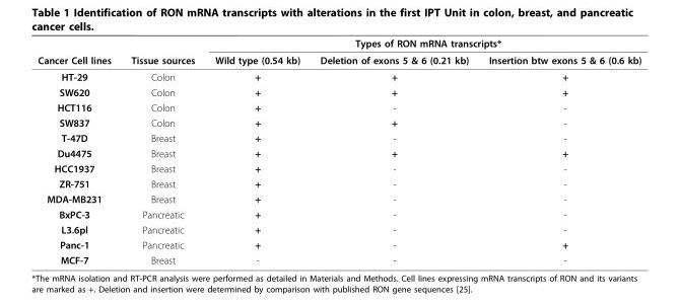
<table><thead><tr><td rowspan="2">Cancer Cell lines</td><td rowspan="2">Tissue sources</td><td colspan="3">Types of RON mRNA transcripts*</td></tr><tr><td>Wild type (0.54 kb)</td><td>Deletion of exons 5 &amp; 6 (0.21 kb)</td><td>Insertion btw exons 5 &amp; 6 (0.6 kb)</td></tr></thead><tbody><tr><td>HT-29</td><td>Colon</td><td>+</td><td>+</td><td>+</td></tr><tr><td>SW620</td><td>Colon</td><td>+</td><td>+</td><td>+</td></tr><tr><td>HCT116</td><td>Colon</td><td>+</td><td>-</td><td>-</td></tr><tr><td>SW837</td><td>Colon</td><td>+</td><td>+</td><td>-</td></tr><tr><td>T-47D</td><td>Breast</td><td>+</td><td>-</td><td>-</td></tr><tr><td>Du4475</td><td>Breast</td><td>+</td><td>+</td><td>+</td></tr><tr><td>HCC1937</td><td>Breast</td><td>+</td><td>-</td><td>-</td></tr><tr><td>ZR-751</td><td>Breast</td><td>+</td><td>-</td><td>-</td></tr><tr><td>MDA-MB231</td><td>Breast</td><td>+</td><td>-</td><td>-</td></tr><tr><td>BxPC-3</td><td>Pancreatic</td><td>+</td><td>-</td><td>-</td></tr><tr><td>L3.6pl</td><td>Pancreatic</td><td>+</td><td>-</td><td>-</td></tr><tr><td>Panc-1</td><td>Pancreatic</td><td>+</td><td>-</td><td>+</td></tr><tr><td>MCF-7</td><td>Breast</td><td>-</td><td>-</td><td>-</td></tr></tbody></table>